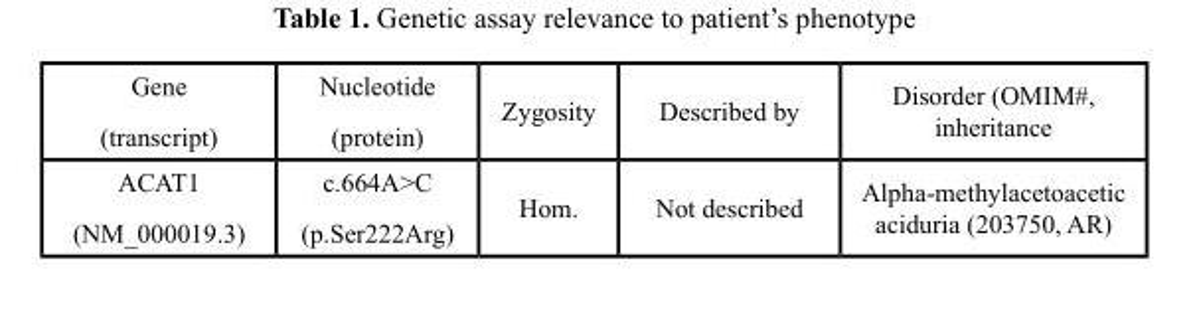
<table><thead><tr><td>Gene (transcript)</td><td>Nucleotide (protein)</td><td>Zygosity</td><td>Described by</td><td>Disorder (OMIM#, inheritance</td></tr></thead><tbody><tr><td>ACAT1 (NM_000019.3)</td><td>c.664A&gt;C (p.Ser222Arg)</td><td>Hom.</td><td>Not described</td><td>Alpha-methylacetoacetic aciduria (203750, AR)</td></tr></tbody></table>